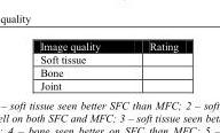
<table><thead><tr><td>Image quality</td><td>Rating</td></tr></thead><tbody><tr><td colspan="2">Soft tissue</td></tr><tr><td colspan="2">Bone</td></tr><tr><td>Joint</td><td></td></tr></tbody></table>